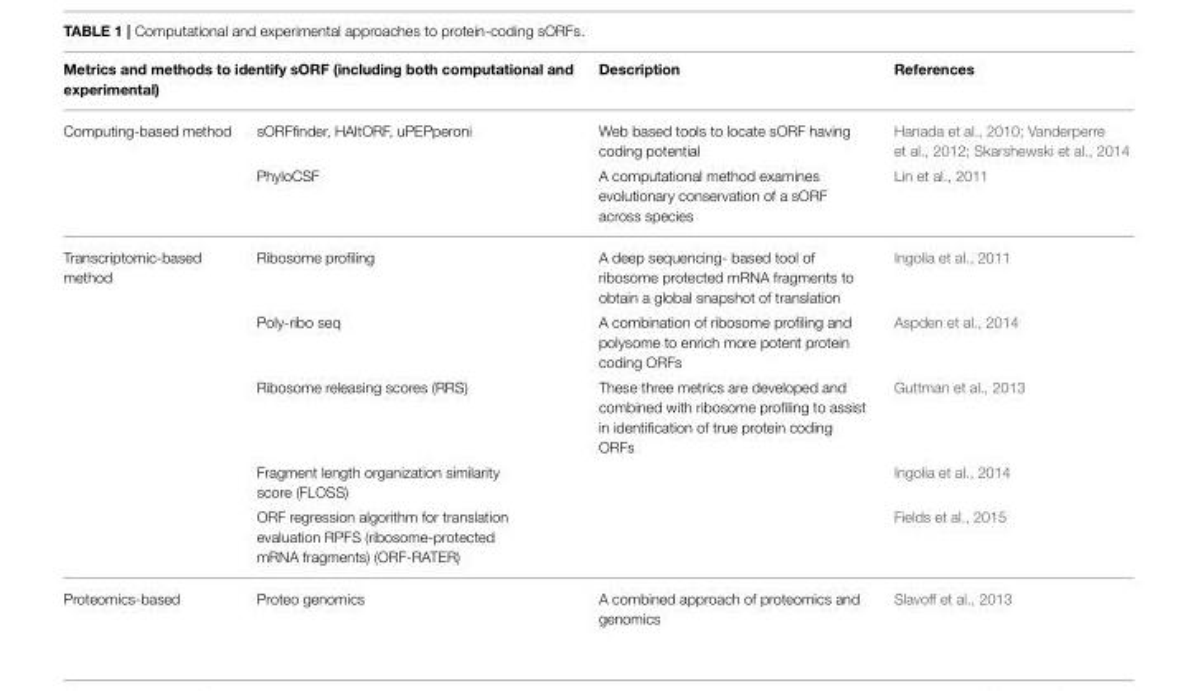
<table><thead><tr><td colspan="2">Metrics and methods to identify sORF (including both computational and experimental)</td><td rowspan="2">Description Web based tools to locate sORF having coding potential</td><td rowspan="2">References Hanada et al., 2010; Vanderperre et al., 2012; Skarshewski et al., 2014</td></tr><tr><td>Computing-based method</td><td>sORFfinder, HAItORF, uPEPperoni</td></tr></thead><tbody><tr><td></td><td>PhyloCSF</td><td>A computational method examines evolutionary conservation of a sORF across species</td><td>Lin et al., 2011</td></tr><tr><td rowspan="5">Transcriptomic-based method</td><td>Ribosome profiling</td><td>A deep sequencing- based tool of ribosome protected mRNA fragments to obtain a global snapshot of translation</td><td>Ingolia et al., 2011</td></tr><tr><td>Poly-ribo seq</td><td>A combination of ribosome profiling and polysome to enrich more potent protein coding ORFs</td><td>Aspden et al., 2014</td></tr><tr><td>Ribosome releasing scores (RRS)</td><td>These three metrics are developed and combined with ribosome profiling to assist in identification of true protein coding ORFs</td><td>Guttman et al., 2013</td></tr><tr><td>Fragment length organization similarity score (FLOSS)</td><td></td><td>Ingolia et al., 2014</td></tr><tr><td>ORF regression algorithm for translation evaluation RPFS (ribosome-protected mRNA fragments) (ORF-RATER)</td><td></td><td>Fields et al., 2015</td></tr><tr><td>Proteomics-based</td><td>Proteo genomics</td><td>A combined approach of proteomics and genomics</td><td>Slavoff et al., 2013</td></tr></tbody></table>